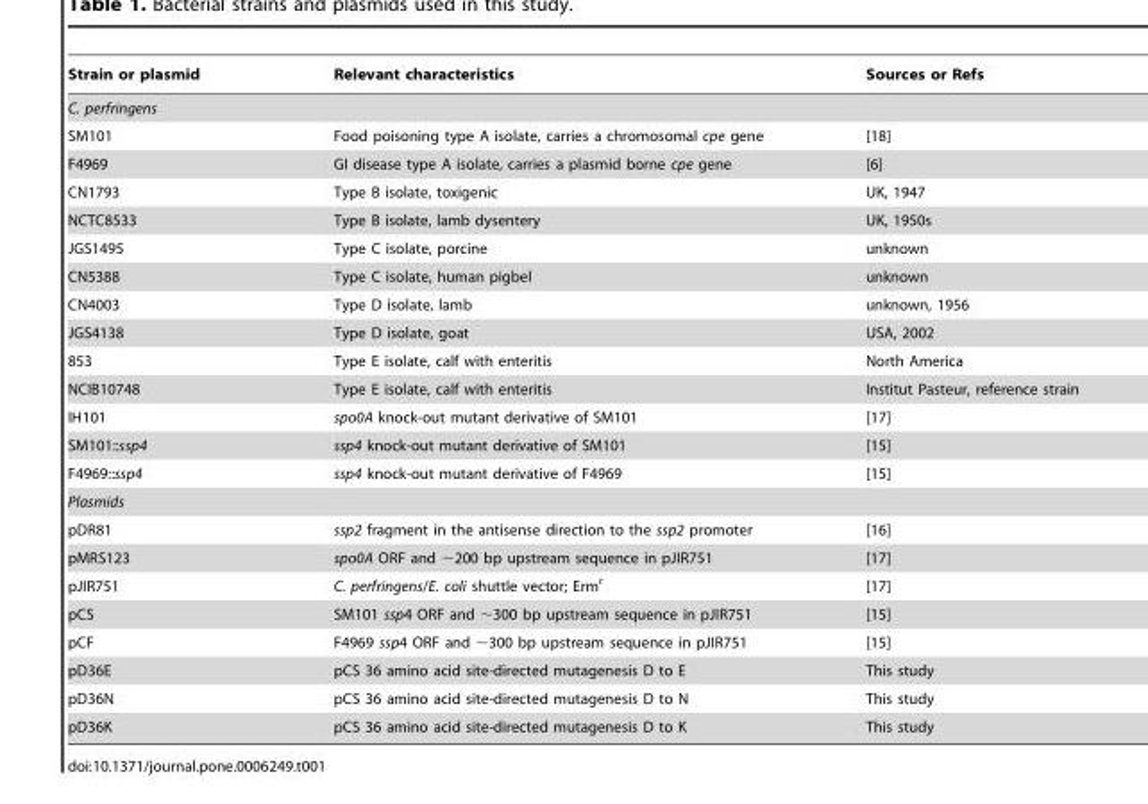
<table><thead><tr><td>Strain or plasmid</td><td>Relevant characteristics</td><td>Sources or Refs</td></tr></thead><tbody><tr><td colspan="3">C. perfringens</td></tr><tr><td>SM101</td><td>Food poisoning type A isolate, carries a chromosomal cpe gene</td><td>[18]</td></tr><tr><td>F4969</td><td>GI disease type A isolate, carries a plasmid borne cpe gene</td><td>[6]</td></tr><tr><td>CN1793</td><td>Type B isolate, toxigenic</td><td>UK, 1947</td></tr><tr><td>NCTC8533</td><td>Type B isolate, lamb dysentery</td><td>UK, 1950s</td></tr><tr><td>JGS1495</td><td>Type C isolate, porcine</td><td>unknown</td></tr><tr><td>CN5388</td><td>Type C isolate, human pigbel</td><td>unknown</td></tr><tr><td>CN4003</td><td>Type D isolate, lamb</td><td>unknown, 1956</td></tr><tr><td>JGS4138</td><td>Type D isolate, goat</td><td>USA, 2002</td></tr><tr><td>853</td><td>Type E isolate, calf with enteritis</td><td>North America</td></tr><tr><td>NCIB10748</td><td>Type E isolate, calf with enteritis</td><td>Institut Pasteur, reference strain</td></tr><tr><td>IH101</td><td>spo0A knock-out mutant derivative of SM101</td><td>[17]</td></tr><tr><td>SM101::ssp4</td><td>ssp4 knock-out mutant derivative of SM101</td><td>[15]</td></tr><tr><td>F4969::ssp4</td><td>ssp4 knock-out mutant derivative of F4969</td><td>[15]</td></tr><tr><td colspan="3">Plasmids</td></tr><tr><td>pDR81</td><td>ssp2 fragment in the antisense direction to the ssp2 promoter</td><td>[16]</td></tr><tr><td>pMRS123</td><td>spo0A ORF and ∼200 bp upstream sequence in pJIR751</td><td>[17]</td></tr><tr><td>pJIR751</td><td>C. perfringens/E. coli shuttle vector; Erm<sup>r</sup></td><td>[17]</td></tr><tr><td>pCS</td><td>SM101 ssp4 ORF and ∼300 bp upstream sequence in pJIR751</td><td>[15]</td></tr><tr><td>pCF</td><td>F4969 ssp4 ORF and ∼300 bp upstream sequence in pJIR751</td><td>[15]</td></tr><tr><td>pD36E</td><td>pCS 36 amino acid site-directed mutagenesis D to E</td><td>This study</td></tr><tr><td>pD36N</td><td>pCS 36 amino acid site-directed mutagenesis D to N</td><td>This study</td></tr><tr><td>pD36K</td><td>pCS 36 amino acid site-directed mutagenesis D to K</td><td>This study</td></tr></tbody></table>